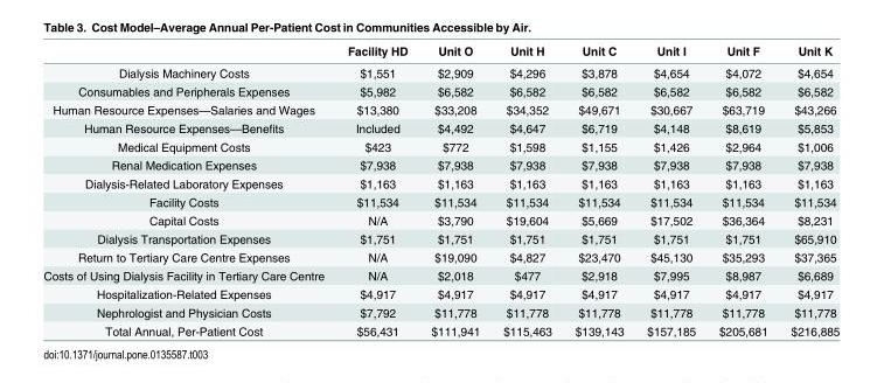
<table><thead><tr><td></td><td>Facility HD</td><td>Unit O</td><td>Unit H</td><td>Unit C</td><td>Unit I</td><td>Unit F</td><td>Unit K</td></tr></thead><tbody><tr><td>Dialysis Machinery Costs</td><td>$1,551</td><td>$2,909</td><td>$4,296</td><td>$3,878</td><td>$4,654</td><td>$4,072</td><td>$4,654</td></tr><tr><td>Consumables and Peripherals Expenses</td><td>$5,982</td><td>$6,582</td><td>$6,582</td><td>$6,582</td><td>$6,582</td><td>$6,582</td><td>$6,582</td></tr><tr><td>Human Resource Expenses—Salaries and Wages</td><td>$13,380</td><td>$33,208</td><td>$34,352</td><td>$49,671</td><td>$30,667</td><td>$63,719</td><td>$43,266</td></tr><tr><td>Human Resource Expenses—Benefits</td><td>Included</td><td>$4,492</td><td>$4,647</td><td>$6,719</td><td>$4,148</td><td>$8,619</td><td>$5,853</td></tr><tr><td>Medical Equipment Costs</td><td>$423</td><td>$772</td><td>$1,598</td><td>$1,155</td><td>$1,426</td><td>$2,964</td><td>$1,006</td></tr><tr><td>Renal Medication Expenses</td><td>$7,938</td><td>$7,938</td><td>$7,938</td><td>$7,938</td><td>$7,938</td><td>$7,938</td><td>$7,938</td></tr><tr><td>Dialysis-Related Laboratory Expenses</td><td>$1,163</td><td>$1,163</td><td>$1,163</td><td>$1,163</td><td>$1,163</td><td>$1,163</td><td>$1,163</td></tr><tr><td>Facility Costs</td><td>$11,534</td><td>$11,534</td><td>$11,534</td><td>$11,534</td><td>$11,534</td><td>$11,534</td><td>$11,534</td></tr><tr><td>Capital Costs</td><td>N/A</td><td>$3,790</td><td>$19,604</td><td>$5,669</td><td>$17,502</td><td>$36,364</td><td>$8,231</td></tr><tr><td>Dialysis Transportation Expenses</td><td>$1,751</td><td>$1,751</td><td>$1,751</td><td>$1,751</td><td>$1,751</td><td>$1,751</td><td>$65,910</td></tr><tr><td>Return to Tertiary Care Centre Expenses</td><td>N/A</td><td>$19,090</td><td>$4,827</td><td>$23,470</td><td>$45,130</td><td>$35,293</td><td>$37,365</td></tr><tr><td>Costs of Using Dialysis Facility in Tertiary Care Centre</td><td>N/A</td><td>$2,018</td><td>$477</td><td>$2,918</td><td>$7,995</td><td>$8,987</td><td>$6,689</td></tr><tr><td>Hospitalization-Related Expenses</td><td>$4,917</td><td>$4,917</td><td>$4,917</td><td>$4,917</td><td>$4,917</td><td>$4,917</td><td>$4,917</td></tr><tr><td>Nephrologist and Physician Costs</td><td>$7,792</td><td>$11,778</td><td>$11,778</td><td>$11,778</td><td>$11,778</td><td>$11,778</td><td>$11,778</td></tr><tr><td>Total Annual, Per-Patient Cost</td><td>$56,431</td><td>$111,941</td><td>$115,463</td><td>$139,143</td><td>$157,185</td><td>$205,681</td><td>$216,885</td></tr></tbody></table>